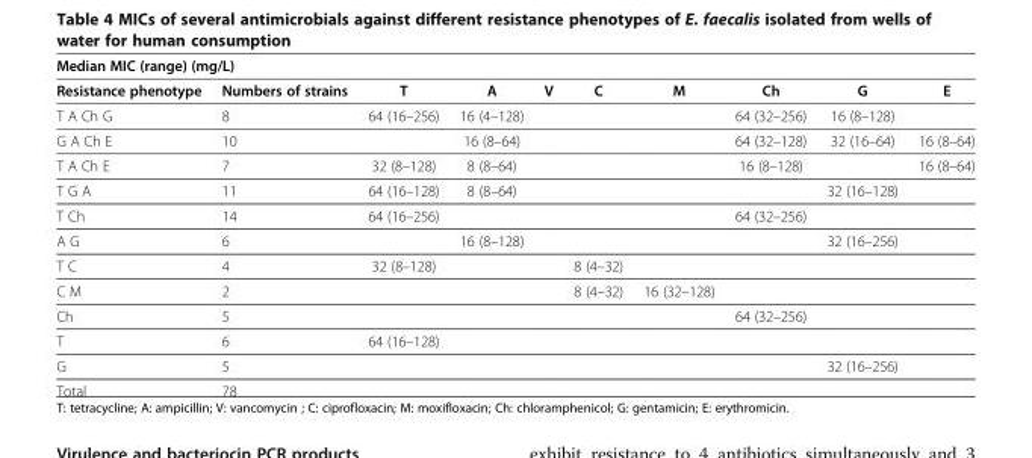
<table><thead><tr><td colspan="10">Median MIC (range) (mg/L)</td></tr><tr><td>Resistance phenotype</td><td>Numbers of strains</td><td>T</td><td>A</td><td>V</td><td>C</td><td>M</td><td>Ch</td><td>G</td><td>E</td></tr></thead><tbody><tr><td>T A Ch G</td><td>8</td><td>64 (16–256)</td><td>16 (4–128)</td><td></td><td></td><td></td><td>64 (32–256)</td><td>16 (8–128)</td><td></td></tr><tr><td>G A Ch E</td><td>10</td><td></td><td>16 (8–64)</td><td></td><td></td><td></td><td>64 (32–128)</td><td>32 (16–64)</td><td>16 (8–64)</td></tr><tr><td>T A Ch E</td><td>7</td><td>32 (8–128)</td><td>8 (8–64)</td><td></td><td></td><td></td><td>16 (8–128)</td><td></td><td>16 (8–64)</td></tr><tr><td>T G A</td><td>11</td><td>64 (16–128)</td><td>8 (8–64)</td><td></td><td></td><td></td><td></td><td>32 (16–128)</td><td></td></tr><tr><td>T Ch</td><td>14</td><td>64 (16–256)</td><td></td><td></td><td></td><td></td><td>64 (32–256)</td><td></td><td></td></tr><tr><td>A G</td><td>6</td><td></td><td>16 (8–128)</td><td></td><td></td><td></td><td></td><td>32 (16–256)</td><td></td></tr><tr><td>T C</td><td>4</td><td>32 (8–128)</td><td></td><td></td><td>8 (4–32)</td><td></td><td></td><td></td><td></td></tr><tr><td>C M</td><td>2</td><td></td><td></td><td></td><td>8 (4–32)</td><td>16 (32–128)</td><td></td><td></td><td></td></tr><tr><td>Ch</td><td>5</td><td></td><td></td><td></td><td></td><td></td><td>64 (32–256)</td><td></td><td></td></tr><tr><td>T</td><td>6</td><td>64 (16–128)</td><td></td><td></td><td></td><td></td><td></td><td></td><td></td></tr><tr><td>G</td><td>5</td><td></td><td></td><td></td><td></td><td></td><td></td><td>32 (16–256)</td><td></td></tr><tr><td>Total</td><td>78</td><td></td><td></td><td></td><td></td><td></td><td></td><td></td><td></td></tr></tbody></table>